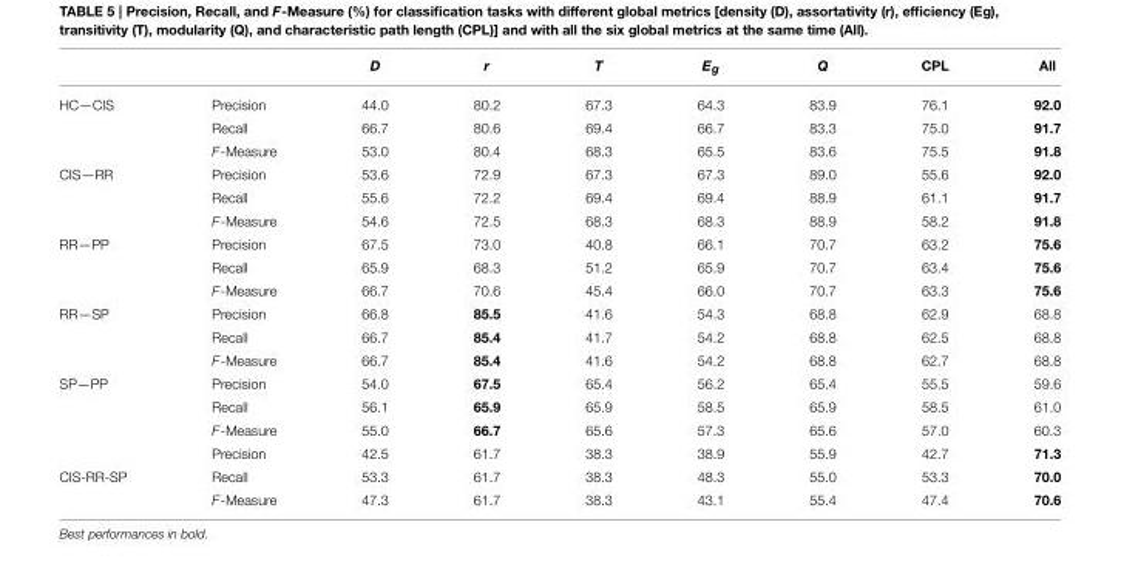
<table><thead><tr><td></td><td></td><td>D</td><td>r</td><td>T</td><td>E<sub>g</sub></td><td>Q</td><td>CPL</td><td>All</td></tr></thead><tbody><tr><td rowspan="3">HC—CIS</td><td>Precision</td><td>44.0</td><td>80.2</td><td>67.3</td><td>64.3</td><td>83.9</td><td>76.1</td><td>92.0</td></tr><tr><td>Recall</td><td>66.7</td><td>80.6</td><td>69.4</td><td>66.7</td><td>83.3</td><td>75.0</td><td>91.7</td></tr><tr><td>F-Measure</td><td>53.0</td><td>80.4</td><td>68.3</td><td>65.5</td><td>83.6</td><td>75.5</td><td>91.8</td></tr><tr><td rowspan="3">CIS—RR</td><td>Precision</td><td>53.6</td><td>72.9</td><td>67.3</td><td>67.3</td><td>89.0</td><td>55.6</td><td>92.0</td></tr><tr><td>Recall</td><td>55.6</td><td>72.2</td><td>69.4</td><td>69.4</td><td>88.9</td><td>61.1</td><td>91.7</td></tr><tr><td>F-Measure</td><td>54.6</td><td>72.5</td><td>68.3</td><td>68.3</td><td>88.9</td><td>58.2</td><td>91.8</td></tr><tr><td rowspan="3">RR—PP</td><td>Precision</td><td>67.5</td><td>73.0</td><td>40.8</td><td>66.1</td><td>70.7</td><td>63.2</td><td>75.6</td></tr><tr><td>Recall</td><td>65.9</td><td>68.3</td><td>51.2</td><td>65.9</td><td>70.7</td><td>63.4</td><td>75.6</td></tr><tr><td>F-Measure</td><td>66.7</td><td>70.6</td><td>45.4</td><td>66.0</td><td>70.7</td><td>63.3</td><td>75.6</td></tr><tr><td rowspan="3">RR—SP</td><td>Precision</td><td>66.8</td><td>85.5</td><td>41.6</td><td>54.3</td><td>68.8</td><td>62.9</td><td>68.8</td></tr><tr><td>Recall</td><td>66.7</td><td>85.4</td><td>41.7</td><td>54.2</td><td>68.8</td><td>62.5</td><td>68.8</td></tr><tr><td>F-Measure</td><td>66.7</td><td>85.4</td><td>41.6</td><td>54.2</td><td>68.8</td><td>62.7</td><td>68.8</td></tr><tr><td rowspan="4">SP—PP</td><td>Precision</td><td>54.0</td><td>67.5</td><td>65.4</td><td>56.2</td><td>65.4</td><td>55.5</td><td>59.6</td></tr><tr><td>Recall</td><td>56.1</td><td>65.9</td><td>65.9</td><td>58.5</td><td>65.9</td><td>58.5</td><td>61.0</td></tr><tr><td>F-Measure</td><td>55.0</td><td>66.7</td><td>65.6</td><td>57.3</td><td>65.6</td><td>57.0</td><td>60.3</td></tr><tr><td>Precision</td><td>42.5</td><td>61.7</td><td>38.3</td><td>38.9</td><td>55.9</td><td>42.7</td><td>71.3</td></tr><tr><td rowspan="2">CIS-RR-SP</td><td>Recall</td><td>53.3</td><td>61.7</td><td>38.3</td><td>48.3</td><td>55.0</td><td>53.3</td><td>70.0</td></tr><tr><td>F-Measure</td><td>47.3</td><td>61.7</td><td>38.3</td><td>43.1</td><td>55.4</td><td>47.4</td><td>70.6</td></tr></tbody></table>